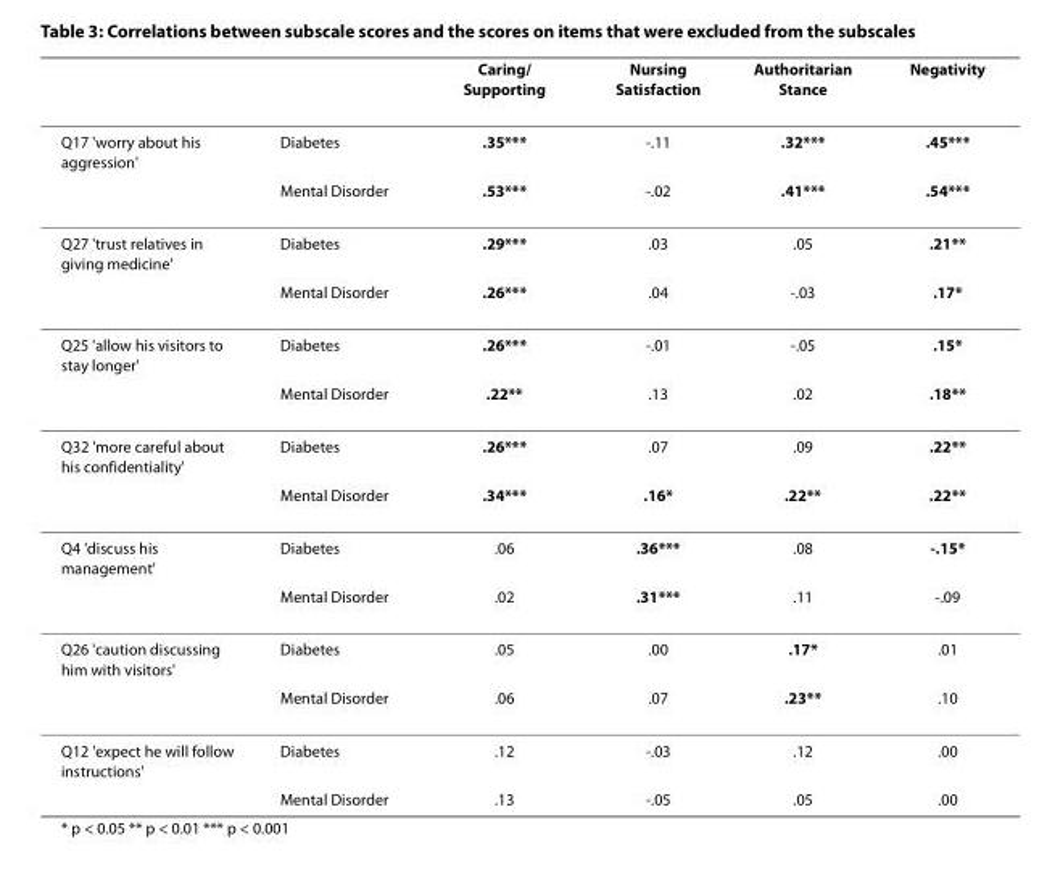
<table><thead><tr><td></td><td></td><td>Caring/ Supporting</td><td>Nursing Satisfaction</td><td>Authoritarian Stance</td><td>Negativity</td></tr></thead><tbody><tr><td rowspan="2">Q17 &#x27;worry about his aggression&#x27;</td><td>Diabetes</td><td>.35***</td><td>-.11</td><td>.32***</td><td>.45***</td></tr><tr><td>Mental Disorder</td><td>.53***</td><td>-.02</td><td>.41***</td><td>.54***</td></tr><tr><td rowspan="2">Q27 &#x27;trust relatives in giving medicine&#x27;</td><td>Diabetes</td><td>.29***</td><td>.03</td><td>.05</td><td>.21**</td></tr><tr><td>Mental Disorder</td><td>.26***</td><td>.04</td><td>-.03</td><td>.17*</td></tr><tr><td rowspan="2">Q25 &#x27;allow his visitors to stay longer&#x27;</td><td>Diabetes</td><td>.26***</td><td>-.01</td><td>-.05</td><td>.15*</td></tr><tr><td>Mental Disorder</td><td>.22**</td><td>.13</td><td>.02</td><td>.18**</td></tr><tr><td rowspan="2">Q32 &#x27;more careful about his confidentiality&#x27;</td><td>Diabetes</td><td>.26***</td><td>.07</td><td>.09</td><td>.22**</td></tr><tr><td>Mental Disorder</td><td>.34***</td><td>.16*</td><td>.22**</td><td>.22**</td></tr><tr><td rowspan="2">Q4 &#x27;discuss his management&#x27;</td><td>Diabetes</td><td>.06</td><td>.36***</td><td>.08</td><td>-.15*</td></tr><tr><td>Mental Disorder</td><td>.02</td><td>.31***</td><td>.11</td><td>-.09</td></tr><tr><td rowspan="2">Q26 &#x27;caution discussing him with visitors&#x27;</td><td>Diabetes</td><td>.05</td><td>.00</td><td>.17*</td><td>.01</td></tr><tr><td>Mental Disorder</td><td>.06</td><td>.07</td><td>.23**</td><td>.10</td></tr><tr><td rowspan="2">Q12 &#x27;expect he will follow instructions&#x27;</td><td>Diabetes</td><td>.12</td><td>-.03</td><td>.12</td><td>.00</td></tr><tr><td>Mental Disorder</td><td>.13</td><td>-.05</td><td>.05</td><td>.00</td></tr></tbody></table>